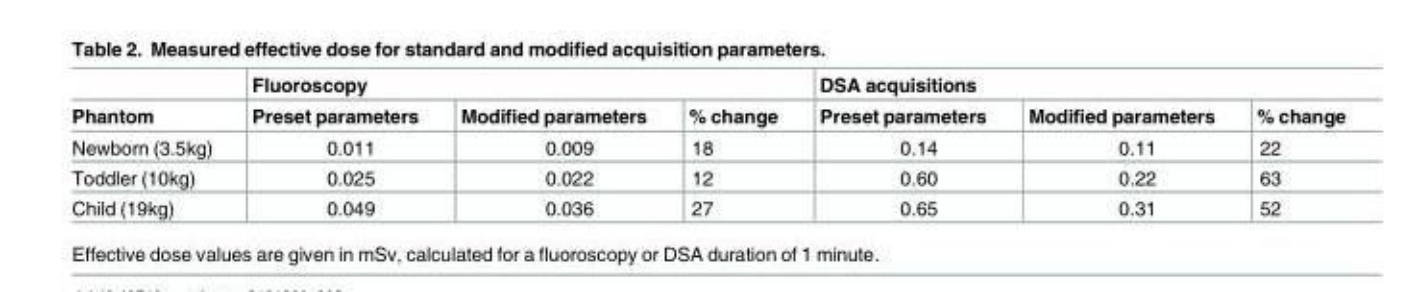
<table><thead><tr><td rowspan="2">Phantom</td><td colspan="3">Fluoroscopy</td><td colspan="3">DSA acquisitions</td></tr><tr><td>Preset parameters</td><td>Modified parameters</td><td>% change</td><td>Preset parameters</td><td>Modified parameters</td><td>% change</td></tr></thead><tbody><tr><td>Newborn (3.5kg)</td><td>0.011</td><td>0.009</td><td>18</td><td>0.14</td><td>0.11</td><td>22</td></tr><tr><td>Toddler (10kg)</td><td>0.025</td><td>0.022</td><td>12</td><td>0.60</td><td>0.22</td><td>63</td></tr><tr><td>Child (19kg)</td><td>0.049</td><td>0.036</td><td>27</td><td>0.65</td><td>0.31</td><td>52</td></tr></tbody></table>